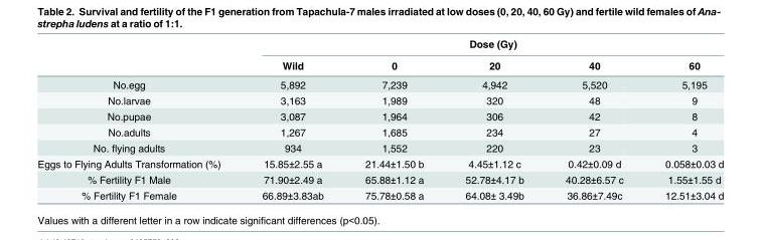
<table><thead><tr><td rowspan="2"></td><td colspan="5">Dose (Gy)</td></tr><tr><td>Wild</td><td>0</td><td>20</td><td>40</td><td>60</td></tr></thead><tbody><tr><td>No.egg</td><td>5,892</td><td>7,239</td><td>4,942</td><td>5,520</td><td>5,195</td></tr><tr><td>No.larvae</td><td>3,163</td><td>1,989</td><td>320</td><td>48</td><td>9</td></tr><tr><td>No.pupae</td><td>3,087</td><td>1,964</td><td>306</td><td>42</td><td>8</td></tr><tr><td>No.adults</td><td>1,267</td><td>1,685</td><td>234</td><td>27</td><td>4</td></tr><tr><td>No. flying adults</td><td>934</td><td>1,552</td><td>220</td><td>23</td><td>3</td></tr><tr><td>Eggs to Flying Adults Transformation (%)</td><td>15.85±2.55 a</td><td>21.44±1.50 b</td><td>4.45±1.12 c</td><td>0.42±0.09 d</td><td>0.058±0.03 d</td></tr><tr><td>% Fertility F1 Male</td><td>71.90±2.49 a</td><td>65.88±1.12 a</td><td>52.78±4.17 b</td><td>40.28±6.57 c</td><td>1.55±1.55 d</td></tr><tr><td>% Fertility F1 Female</td><td>66.89±3.83ab</td><td>75.78±0.58 a</td><td>64.08± 3.49b</td><td>36.86±7.49c</td><td>12.51±3.04 d</td></tr></tbody></table>